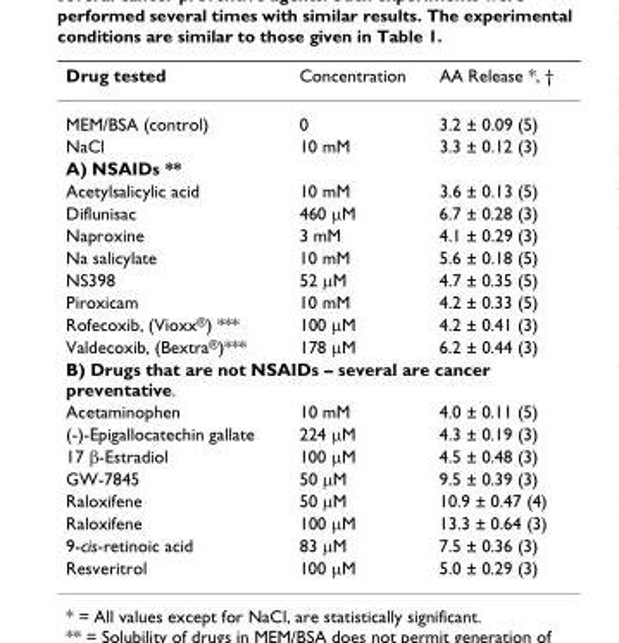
<table><thead><tr><td>Drug tested</td><td>Concentration</td><td>AA Release *, †</td></tr></thead><tbody><tr><td>MEM/BSA (control)</td><td>0</td><td>3.2 ± 0.09 (5)</td></tr><tr><td>NaCl</td><td>10 mM</td><td>3.3 ± 0.12 (3)</td></tr><tr><td colspan="3">A) NSAIDs **</td></tr><tr><td>Acetylsalicylic acid</td><td>10 mM</td><td>3.6 ± 0.13 (5)</td></tr><tr><td>Diflunisac</td><td>460 µM</td><td>6.7 ± 0.28 (3)</td></tr><tr><td>Naproxine</td><td>3 mM</td><td>4.1 ± 0.29 (3)</td></tr><tr><td>Na salicylate</td><td>10 mM</td><td>5.6 ± 0.18 (5)</td></tr><tr><td>NS398</td><td>52 µM</td><td>4.7 ± 0.35 (5)</td></tr><tr><td>Piroxicam</td><td>10 mM</td><td>4.2 ± 0.33 (5)</td></tr><tr><td>Rofecoxib, (Vioxx<sup>®</sup>) ***</td><td>100 µM</td><td>4.2 ± 0.41 (3)</td></tr><tr><td>Valdecoxib, (Bextra<sup>®</sup>)***</td><td>178 µM</td><td>6.2 ± 0.44 (3)</td></tr><tr><td colspan="3">B) Drugs that are not NSAIDs – several are cancer preventative.</td></tr><tr><td>Acetaminophen</td><td>10 mM</td><td>4.0 ± 0.11 (5)</td></tr><tr><td>(-)-Epigallocatechin gallate</td><td>224 µM</td><td>4.3 ± 0.19 (3)</td></tr><tr><td>17 β-Estradiol</td><td>100 µM</td><td>4.5 ± 0.48 (3)</td></tr><tr><td>GW-7845</td><td>50 µM</td><td>9.5 ± 0.39 (3)</td></tr><tr><td>Raloxifene</td><td>50 µM</td><td>10.9 ± 0.47 (4)</td></tr><tr><td>Raloxifene</td><td>100 µM</td><td>13.3 ± 0.64 (3)</td></tr><tr><td>9-cis-retinoic acid</td><td>83 µM</td><td>7.5 ± 0.36 (3)</td></tr><tr><td>Resveritrol</td><td>100 µM</td><td>5.0 ± 0.29 (3)</td></tr></tbody></table>